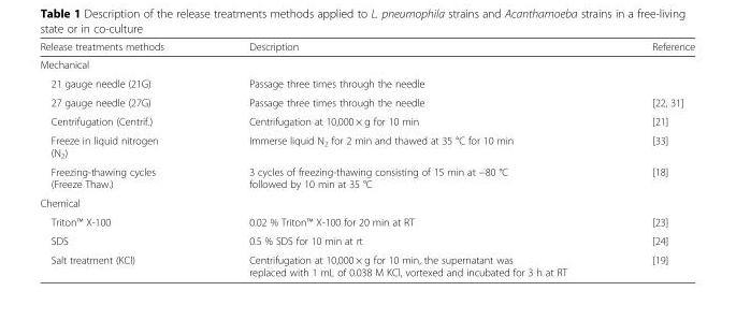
<table><thead><tr><td>Release treatments methods</td><td>Description</td><td>Reference</td></tr></thead><tbody><tr><td colspan="3">Mechanical</td></tr><tr><td>21 gauge needle (21G)</td><td>Passage three times through the needle</td><td></td></tr><tr><td>27 gauge needle (27G)</td><td>Passage three times through the needle</td><td>[22, 31]</td></tr><tr><td>Centrifugation (Centrif.)</td><td>Centrifugation at 10,000 × g for 10 min</td><td>[21]</td></tr><tr><td>Freeze in liquid nitrogen (N<sub>2</sub>)</td><td>Immerse liquid N<sub>2</sub> for 2 min and thawed at 35 °C for 10 min</td><td>[33]</td></tr><tr><td>Freezing-thawing cycles (Freeze Thaw.)</td><td>3 cycles of freezing-thawing consisting of 15 min at −80 °C followed by 10 min at 35 °C</td><td>[18]</td></tr><tr><td colspan="3">Chemical</td></tr><tr><td>Triton™ X-100</td><td>0.02 % Triton™ X-100 for 20 min at RT</td><td>[23]</td></tr><tr><td>SDS</td><td>0.5 % SDS for 10 min at rt</td><td>[24]</td></tr><tr><td>Salt treatment (KCl)</td><td>Centrifugation at 10,000 × g for 10 min, the supernatant was replaced with 1 mL of 0.038 M KCl, vortexed and incubated for 3 h at RT</td><td>[19]</td></tr></tbody></table>